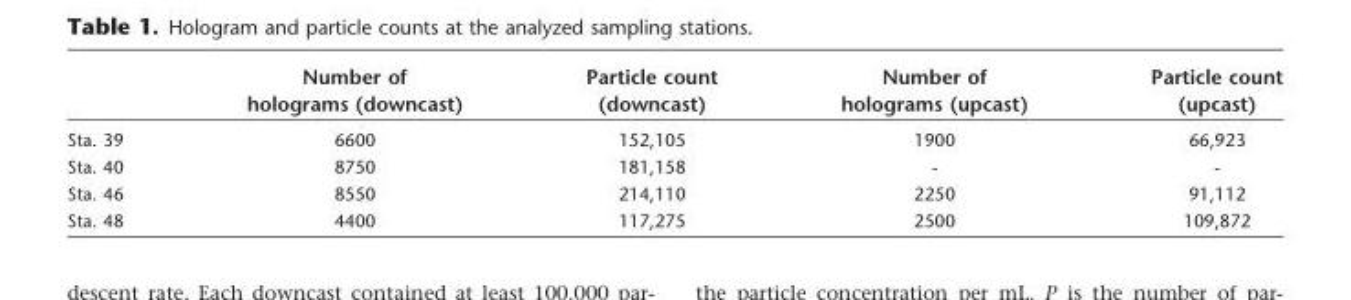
<table><thead><tr><td></td><td>Number of holograms (downcast)</td><td>Particle count (downcast)</td><td>Number of holograms (upcast)</td><td>Particle count (upcast)</td></tr></thead><tbody><tr><td>Sta. 39</td><td>6600</td><td>152,105</td><td>1900</td><td>66,923</td></tr><tr><td>Sta. 40</td><td>8750</td><td>181,158</td><td>-</td><td>-</td></tr><tr><td>Sta. 46</td><td>8550</td><td>214,110</td><td>2250</td><td>91,112</td></tr><tr><td>Sta. 48</td><td>4400</td><td>117,275</td><td>2500</td><td>109,872</td></tr></tbody></table>